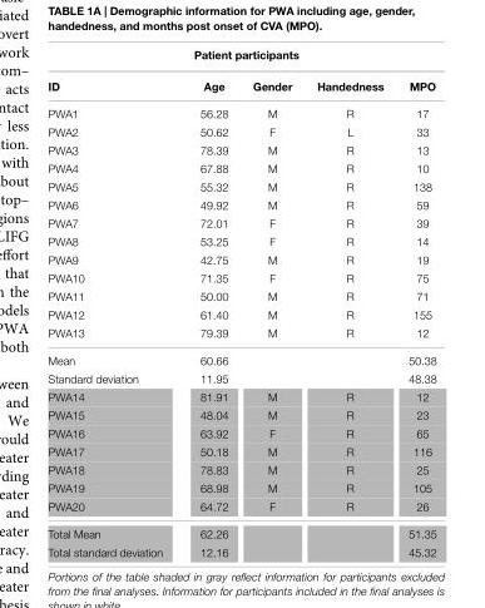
<table><thead><tr><td rowspan="2">ID</td><td colspan="2">Patient participants</td><td rowspan="2">Handedness</td><td rowspan="2">MPO</td></tr><tr><td>Age</td><td>Gender</td></tr></thead><tbody><tr><td>PWA1</td><td>56.28</td><td>M</td><td>R</td><td>17</td></tr><tr><td>PWA2</td><td>50.62</td><td>F</td><td>L</td><td>33</td></tr><tr><td>PWA3</td><td>78.39</td><td>M</td><td>R</td><td>13</td></tr><tr><td>PWA4</td><td>67.88</td><td>M</td><td>R</td><td>10</td></tr><tr><td>PWA5</td><td>55.32</td><td>M</td><td>R</td><td>138</td></tr><tr><td>PWA6</td><td>49.92</td><td>M</td><td>R</td><td>59</td></tr><tr><td>PWA7</td><td>72.01</td><td>F</td><td>R</td><td>39</td></tr><tr><td>PWA8</td><td>53.25</td><td>F</td><td>R</td><td>14</td></tr><tr><td>PWA9</td><td>42.75</td><td>M</td><td>R</td><td>19</td></tr><tr><td>PWA10</td><td>71.35</td><td>F</td><td>R</td><td>75</td></tr><tr><td>PWA11</td><td>50.00</td><td>M</td><td>R</td><td>71</td></tr><tr><td>PWA12</td><td>61.40</td><td>M</td><td>R</td><td>155</td></tr><tr><td>PWA13</td><td>79.39</td><td>M</td><td>R</td><td>12</td></tr><tr><td>Mean</td><td>60.66</td><td></td><td></td><td>50.38</td></tr><tr><td>Standard deviation</td><td>11.95</td><td></td><td></td><td>48.38</td></tr><tr><td>PWA14</td><td>81.91</td><td>M</td><td>R</td><td>12</td></tr><tr><td>PWA15</td><td>48.04</td><td>M</td><td>R</td><td>23</td></tr><tr><td>PWA16</td><td>63.92</td><td>F</td><td>R</td><td>65</td></tr><tr><td>PWA17</td><td>50.18</td><td>M</td><td>R</td><td>116</td></tr><tr><td>PWA18</td><td>78.83</td><td>M</td><td>R</td><td>25</td></tr><tr><td>PWA19</td><td>68.98</td><td>M</td><td>R</td><td>105</td></tr><tr><td>PWA20</td><td>64.72</td><td>F</td><td>R</td><td>26</td></tr><tr><td>Total Mean</td><td>62.26</td><td></td><td></td><td>51.35</td></tr><tr><td>Total standard deviation</td><td>12.16</td><td></td><td></td><td>45.32</td></tr></tbody></table>